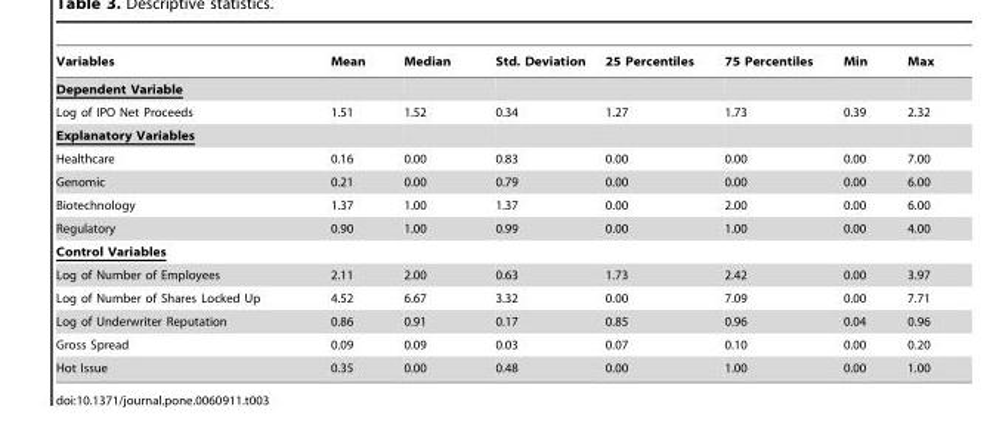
<table><thead><tr><td>Variables</td><td>Mean</td><td>Median</td><td>Std. Deviation</td><td>25 Percentiles</td><td>75 Percentiles</td><td>Min</td><td>Max</td></tr></thead><tbody><tr><td colspan="8">Dependent Variable</td></tr><tr><td>Log of IPO Net Proceeds</td><td>1.51</td><td>1.52</td><td>0.34</td><td>1.27</td><td>1.73</td><td>0.39</td><td>2.32</td></tr><tr><td colspan="8">Explanatory Variables</td></tr><tr><td>Healthcare</td><td>0.16</td><td>0.00</td><td>0.83</td><td>0.00</td><td>0.00</td><td>0.00</td><td>7.00</td></tr><tr><td>Genomic</td><td>0.21</td><td>0.00</td><td>0.79</td><td>0.00</td><td>0.00</td><td>0.00</td><td>6.00</td></tr><tr><td>Biotechnology</td><td>1.37</td><td>1.00</td><td>1.37</td><td>0.00</td><td>2.00</td><td>0.00</td><td>6.00</td></tr><tr><td>Regulatory</td><td>0.90</td><td>1.00</td><td>0.99</td><td>0.00</td><td>1.00</td><td>0.00</td><td>4.00</td></tr><tr><td colspan="8">Control Variables</td></tr><tr><td>Log of Number of Employees</td><td>2.11</td><td>2.00</td><td>0.63</td><td>1.73</td><td>2.42</td><td>0.00</td><td>3.97</td></tr><tr><td>Log of Number of Shares Locked Up</td><td>4.52</td><td>6.67</td><td>3.32</td><td>0.00</td><td>7.09</td><td>0.00</td><td>7.71</td></tr><tr><td>Log of Underwriter Reputation</td><td>0.86</td><td>0.91</td><td>0.17</td><td>0.85</td><td>0.96</td><td>0.04</td><td>0.96</td></tr><tr><td>Gross Spread</td><td>0.09</td><td>0.09</td><td>0.03</td><td>0.07</td><td>0.10</td><td>0.00</td><td>0.20</td></tr><tr><td>Hot Issue</td><td>0.35</td><td>0.00</td><td>0.48</td><td>0.00</td><td>1.00</td><td>0.00</td><td>1.00</td></tr></tbody></table>